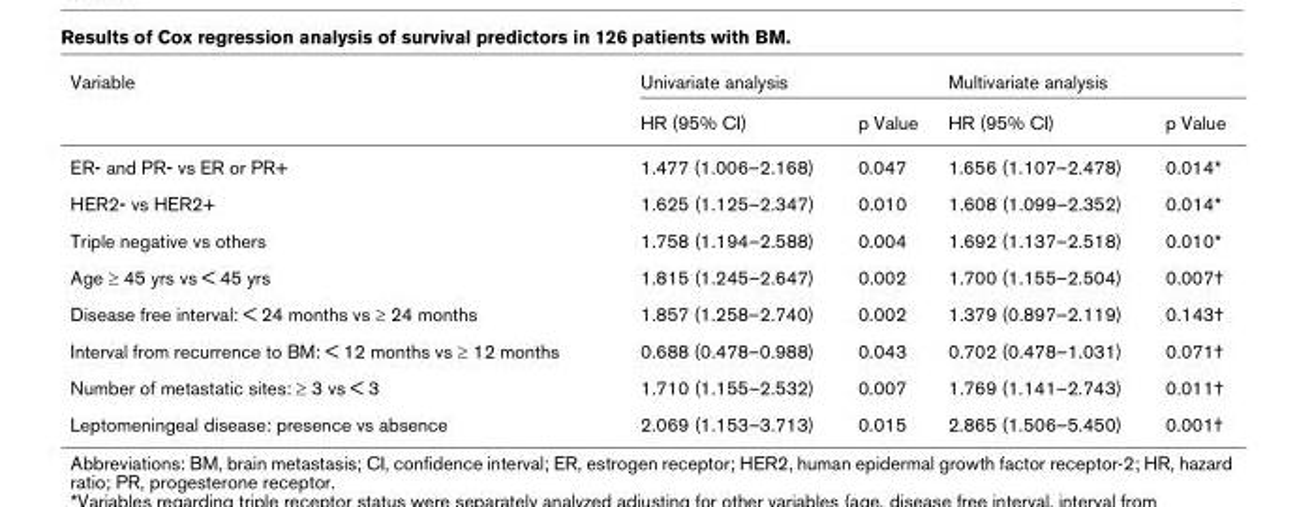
<table><thead><tr><td rowspan="2">Variable</td><td colspan="2">Univariate analysis</td><td colspan="2">Multivariate analysis</td></tr><tr><td>HR (95% CI)</td><td>p Value</td><td>HR (95% CI)</td><td>p Value</td></tr></thead><tbody><tr><td>ER- and PR- vs ER or PR+</td><td>1.477 (1.006–2.168)</td><td>0.047</td><td>1.656 (1.107–2.478)</td><td>0.014*</td></tr><tr><td>HER2- vs HER2+</td><td>1.625 (1.125–2.347)</td><td>0.010</td><td>1.608 (1.099–2.352)</td><td>0.014*</td></tr><tr><td>Triple negative vs others</td><td>1.758 (1.194–2.588)</td><td>0.004</td><td>1.692 (1.137–2.518)</td><td>0.010*</td></tr><tr><td>Age ≥ 45 yrs vs &lt; 45 yrs</td><td>1.815 (1.245–2.647)</td><td>0.002</td><td>1.700 (1.155–2.504)</td><td>0.007†</td></tr><tr><td>Disease free interval: &lt; 24 months vs ≥ 24 months</td><td>1.857 (1.258–2.740)</td><td>0.002</td><td>1.379 (0.897–2.119)</td><td>0.143†</td></tr><tr><td>Interval from recurrence to BM: &lt; 12 months vs ≥ 12 months</td><td>0.688 (0.478–0.988)</td><td>0.043</td><td>0.702 (0.478–1.031)</td><td>0.071†</td></tr><tr><td>Number of metastatic sites: ≥ 3 vs &lt; 3</td><td>1.710 (1.155–2.532)</td><td>0.007</td><td>1.769 (1.141–2.743)</td><td>0.011†</td></tr><tr><td>Leptomeningeal disease: presence vs absence</td><td>2.069 (1.153–3.713)</td><td>0.015</td><td>2.865 (1.506–5.450)</td><td>0.001†</td></tr></tbody></table>